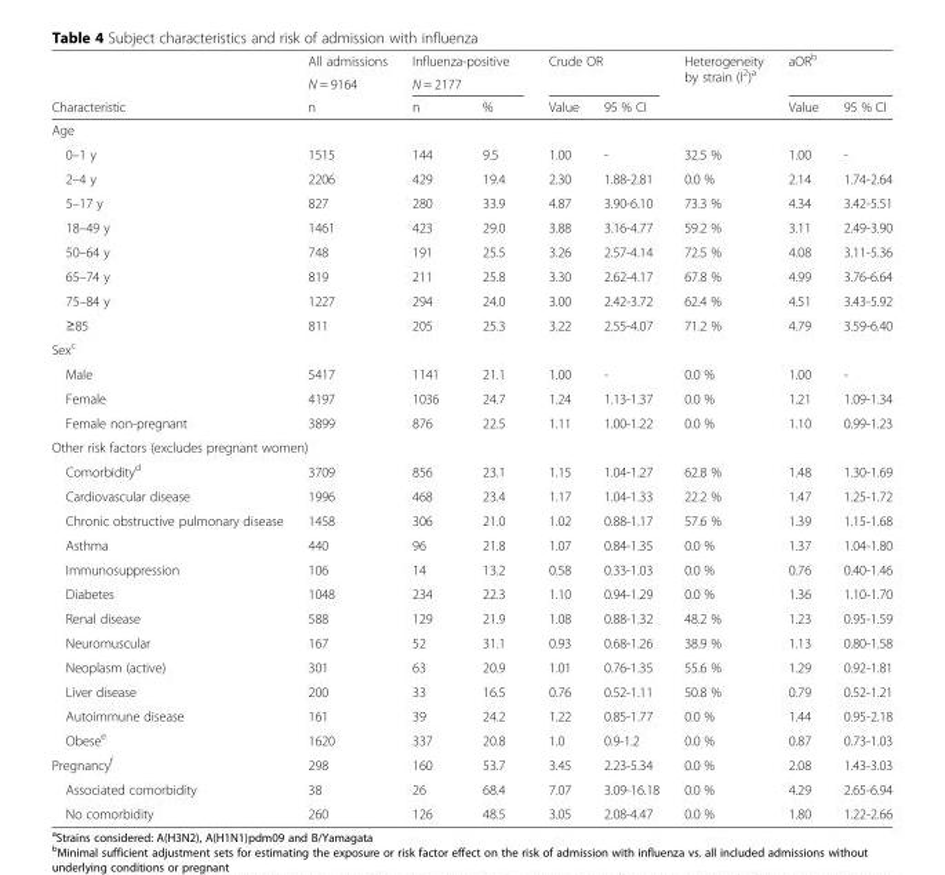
<table><thead><tr><td rowspan="3">Characteristic</td><td rowspan="3">All admissions N = 9164 n</td><td rowspan="2" colspan="2">Influenza-positive N = 2177</td><td rowspan="2" colspan="2">Crude OR</td><td rowspan="3">Heterogeneity by strain (I<sup>2</sup>)<sup>a</sup></td><td rowspan="2" colspan="2">aOR<sup>b</sup></td></tr><tr></tr><tr><td>n</td><td>%</td><td>Value</td><td>95 % CI</td><td>Value</td><td>95 % CI</td></tr></thead><tbody><tr><td colspan="9">Age</td></tr><tr><td>0–1 y</td><td>1515</td><td>144</td><td>9.5</td><td>1.00</td><td>-</td><td>32.5 %</td><td>1.00</td><td>-</td></tr><tr><td>2–4 y</td><td>2206</td><td>429</td><td>19.4</td><td>2.30</td><td>1.88-2.81</td><td>0.0 %</td><td>2.14</td><td>1.74-2.64</td></tr><tr><td>5–17 y</td><td>827</td><td>280</td><td>33.9</td><td>4.87</td><td>3.90-6.10</td><td>73.3 %</td><td>4.34</td><td>3.42-5.51</td></tr><tr><td>18–49 y</td><td>1461</td><td>423</td><td>29.0</td><td>3.88</td><td>3.16-4.77</td><td>59.2 %</td><td>3.11</td><td>2.49-3.90</td></tr><tr><td>50–64 y</td><td>748</td><td>191</td><td>25.5</td><td>3.26</td><td>2.57-4.14</td><td>72.5 %</td><td>4.08</td><td>3.11-5.36</td></tr><tr><td>65–74 y</td><td>819</td><td>211</td><td>25.8</td><td>3.30</td><td>2.62-4.17</td><td>67.8 %</td><td>4.99</td><td>3.76-6.64</td></tr><tr><td>75–84 y</td><td>1227</td><td>294</td><td>24.0</td><td>3.00</td><td>2.42-3.72</td><td>62.4 %</td><td>4.51</td><td>3.43-5.92</td></tr><tr><td>≥85</td><td>811</td><td>205</td><td>25.3</td><td>3.22</td><td>2.55-4.07</td><td>71.2 %</td><td>4.79</td><td>3.59-6.40</td></tr><tr><td colspan="9">Sex<sup>c</sup></td></tr><tr><td>Male</td><td>5417</td><td>1141</td><td>21.1</td><td>1.00</td><td>-</td><td>0.0 %</td><td>1.00</td><td>-</td></tr><tr><td>Female</td><td>4197</td><td>1036</td><td>24.7</td><td>1.24</td><td>1.13-1.37</td><td>0.0 %</td><td>1.21</td><td>1.09-1.34</td></tr><tr><td>Female non-pregnant</td><td>3899</td><td>876</td><td>22.5</td><td>1.11</td><td>1.00-1.22</td><td>0.0 %</td><td>1.10</td><td>0.99-1.23</td></tr><tr><td colspan="9">Other risk factors (excludes pregnant women)</td></tr><tr><td>Comorbidity<sup>d</sup></td><td>3709</td><td>856</td><td>23.1</td><td>1.15</td><td>1.04-1.27</td><td>62.8 %</td><td>1.48</td><td>1.30-1.69</td></tr><tr><td>Cardiovascular disease</td><td>1996</td><td>468</td><td>23.4</td><td>1.17</td><td>1.04-1.33</td><td>22.2 %</td><td>1.47</td><td>1.25-1.72</td></tr><tr><td>Chronic obstructive pulmonary disease</td><td>1458</td><td>306</td><td>21.0</td><td>1.02</td><td>0.88-1.17</td><td>57.6 %</td><td>1.39</td><td>1.15-1.68</td></tr><tr><td>Asthma</td><td>440</td><td>96</td><td>21.8</td><td>1.07</td><td>0.84-1.35</td><td>0.0 %</td><td>1.37</td><td>1.04-1.80</td></tr><tr><td>Immunosuppression</td><td>106</td><td>14</td><td>13.2</td><td>0.58</td><td>0.33-1.03</td><td>0.0 %</td><td>0.76</td><td>0.40-1.46</td></tr><tr><td>Diabetes</td><td>1048</td><td>234</td><td>22.3</td><td>1.10</td><td>0.94-1.29</td><td>0.0 %</td><td>1.36</td><td>1.10-1.70</td></tr><tr><td>Renal disease</td><td>588</td><td>129</td><td>21.9</td><td>1.08</td><td>0.88-1.32</td><td>48.2 %</td><td>1.23</td><td>0.95-1.59</td></tr><tr><td>Neuromuscular</td><td>167</td><td>52</td><td>31.1</td><td>0.93</td><td>0.68-1.26</td><td>38.9 %</td><td>1.13</td><td>0.80-1.58</td></tr><tr><td>Neoplasm (active)</td><td>301</td><td>63</td><td>20.9</td><td>1.01</td><td>0.76-1.35</td><td>55.6 %</td><td>1.29</td><td>0.92-1.81</td></tr><tr><td>Liver disease</td><td>200</td><td>33</td><td>16.5</td><td>0.76</td><td>0.52-1.11</td><td>50.8 %</td><td>0.79</td><td>0.52-1.21</td></tr><tr><td>Autoimmune disease</td><td>161</td><td>39</td><td>24.2</td><td>1.22</td><td>0.85-1.77</td><td>0.0 %</td><td>1.44</td><td>0.95-2.18</td></tr><tr><td>Obese<sup>e</sup></td><td>1620</td><td>337</td><td>20.8</td><td>1.0</td><td>0.9-1.2</td><td>0.0 %</td><td>0.87</td><td>0.73-1.03</td></tr><tr><td>Pregnancy<sup>f</sup></td><td>298</td><td>160</td><td>53.7</td><td>3.45</td><td>2.23-5.34</td><td>0.0 %</td><td>2.08</td><td>1.43-3.03</td></tr><tr><td>Associated comorbidity</td><td>38</td><td>26</td><td>68.4</td><td>7.07</td><td>3.09-16.18</td><td>0.0 %</td><td>4.29</td><td>2.65-6.94</td></tr><tr><td>No comorbidity</td><td>260</td><td>126</td><td>48.5</td><td>3.05</td><td>2.08-4.47</td><td>0.0 %</td><td>1.80</td><td>1.22-2.66</td></tr></tbody></table>